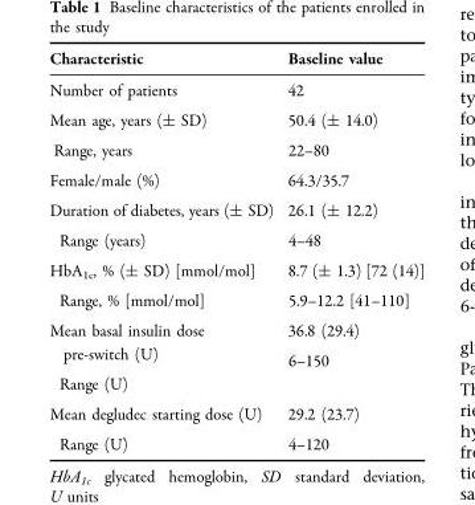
<table><thead><tr><td>Characteristic</td><td>Baseline value</td></tr></thead><tbody><tr><td>Number of patients</td><td>42</td></tr><tr><td>Mean age, years (± SD) Range, years</td><td>50.4 (± 14.0) 22–80</td></tr><tr><td>Female/male (%)</td><td>64.3/35.7</td></tr><tr><td>Duration of diabetes, years (± SD) Range (years)</td><td>26.1 (± 12.2) 4–48</td></tr><tr><td>HbA<sub>1c</sub>, % (± SD) [mmol/mol] Range, % [mmol/mol]</td><td>8.7 (± 1.3) [72 (14)] 5.9–12.2 [41–110]</td></tr><tr><td>Mean basal insulin dose pre-switch (U) Range (U)</td><td>36.8 (29.4) 6–150</td></tr><tr><td>Mean degludec starting dose (U) Range (U)</td><td>29.2 (23.7) 4–120</td></tr></tbody></table>